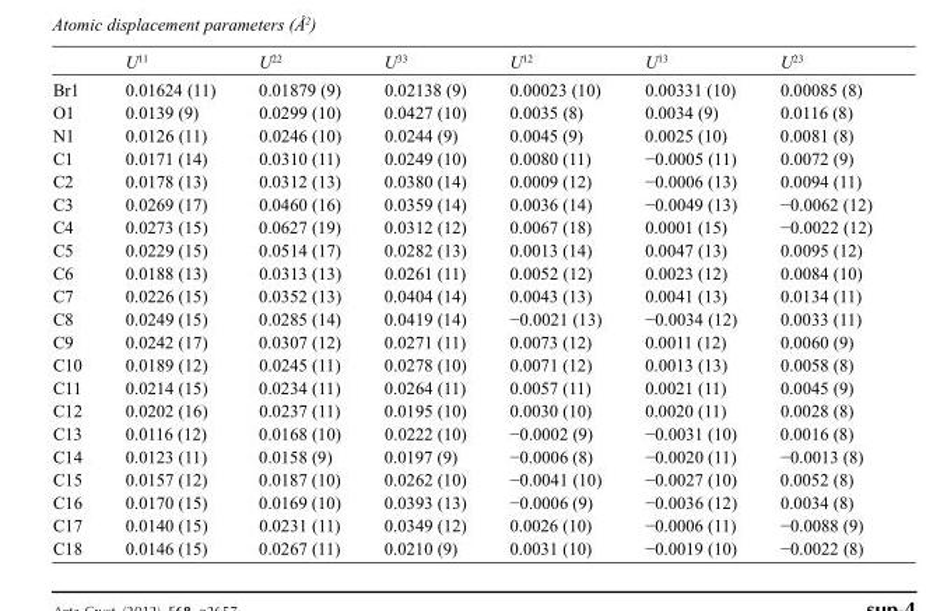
<table><thead><tr><td></td><td>U<sup>11</sup></td><td>U<sup>22</sup></td><td>U<sup>33</sup></td><td>U<sup>12</sup></td><td>U<sup>13</sup></td><td>U<sup>23</sup></td></tr></thead><tbody><tr><td>Br1</td><td>0.01624 (11)</td><td>0.01879 (9)</td><td>0.02138 (9)</td><td>0.00023 (10)</td><td>0.00331 (10)</td><td>0.00085 (8)</td></tr><tr><td>O1</td><td>0.0139 (9)</td><td>0.0299 (10)</td><td>0.0427 (10)</td><td>0.0035 (8)</td><td>0.0034 (9)</td><td>0.0116 (8)</td></tr><tr><td>N1</td><td>0.0126 (11)</td><td>0.0246 (10)</td><td>0.0244 (9)</td><td>0.0045 (9)</td><td>0.0025 (10)</td><td>0.0081 (8)</td></tr><tr><td>C1</td><td>0.0171 (14)</td><td>0.0310 (11)</td><td>0.0249 (10)</td><td>0.0080 (11)</td><td>−0.0005 (11)</td><td>0.0072 (9)</td></tr><tr><td>C2</td><td>0.0178 (13)</td><td>0.0312 (13)</td><td>0.0380 (14)</td><td>0.0009 (12)</td><td>−0.0006 (13)</td><td>0.0094 (11)</td></tr><tr><td>C3</td><td>0.0269 (17)</td><td>0.0460 (16)</td><td>0.0359 (14)</td><td>0.0036 (14)</td><td>−0.0049 (13)</td><td>−0.0062 (12)</td></tr><tr><td>C4</td><td>0.0273 (15)</td><td>0.0627 (19)</td><td>0.0312 (12)</td><td>0.0067 (18)</td><td>0.0001 (15)</td><td>−0.0022 (12)</td></tr><tr><td>C5</td><td>0.0229 (15)</td><td>0.0514 (17)</td><td>0.0282 (13)</td><td>0.0013 (14)</td><td>0.0047 (13)</td><td>0.0095 (12)</td></tr><tr><td>C6</td><td>0.0188 (13)</td><td>0.0313 (13)</td><td>0.0261 (11)</td><td>0.0052 (12)</td><td>0.0023 (12)</td><td>0.0084 (10)</td></tr><tr><td>C7</td><td>0.0226 (15)</td><td>0.0352 (13)</td><td>0.0404 (14)</td><td>0.0043 (13)</td><td>0.0041 (13)</td><td>0.0134 (11)</td></tr><tr><td>C8</td><td>0.0249 (15)</td><td>0.0285 (14)</td><td>0.0419 (14)</td><td>−0.0021 (13)</td><td>−0.0034 (12)</td><td>0.0033 (11)</td></tr><tr><td>C9</td><td>0.0242 (17)</td><td>0.0307 (12)</td><td>0.0271 (11)</td><td>0.0073 (12)</td><td>0.0011 (12)</td><td>0.0060 (9)</td></tr><tr><td>C10</td><td>0.0189 (12)</td><td>0.0245 (11)</td><td>0.0278 (10)</td><td>0.0071 (12)</td><td>0.0013 (13)</td><td>0.0058 (8)</td></tr><tr><td>C11</td><td>0.0214 (15)</td><td>0.0234 (11)</td><td>0.0264 (11)</td><td>0.0057 (11)</td><td>0.0021 (11)</td><td>0.0045 (9)</td></tr><tr><td>C12</td><td>0.0202 (16)</td><td>0.0237 (11)</td><td>0.0195 (10)</td><td>0.0030 (10)</td><td>0.0020 (11)</td><td>0.0028 (8)</td></tr><tr><td>C13</td><td>0.0116 (12)</td><td>0.0168 (10)</td><td>0.0222 (10)</td><td>−0.0002 (9)</td><td>−0.0031 (10)</td><td>0.0016 (8)</td></tr><tr><td>C14</td><td>0.0123 (11)</td><td>0.0158 (9)</td><td>0.0197 (9)</td><td>−0.0006 (8)</td><td>−0.0020 (11)</td><td>−0.0013 (8)</td></tr><tr><td>C15</td><td>0.0157 (12)</td><td>0.0187 (10)</td><td>0.0262 (10)</td><td>−0.0041 (10)</td><td>−0.0027 (10)</td><td>0.0052 (8)</td></tr><tr><td>C16</td><td>0.0170 (15)</td><td>0.0169 (10)</td><td>0.0393 (13)</td><td>−0.0006 (9)</td><td>−0.0036 (12)</td><td>0.0034 (8)</td></tr><tr><td>C17</td><td>0.0140 (15)</td><td>0.0231 (11)</td><td>0.0349 (12)</td><td>0.0026 (10)</td><td>−0.0006 (11)</td><td>−0.0088 (9)</td></tr><tr><td>C18</td><td>0.0146 (15)</td><td>0.0267 (11)</td><td>0.0210 (9)</td><td>0.0031 (10)</td><td>−0.0019 (10)</td><td>−0.0022 (8)</td></tr></tbody></table>